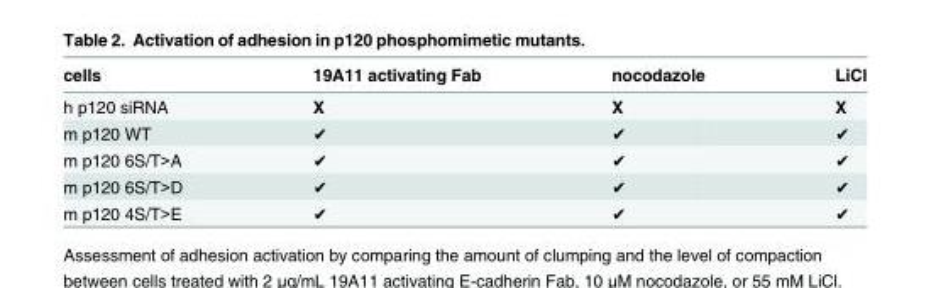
<table><thead><tr><td>cells</td><td>19A11 activating Fab</td><td>nocodazole</td><td>LiCl</td></tr></thead><tbody><tr><td>h p120 siRNA</td><td>X</td><td>X</td><td>X</td></tr><tr><td>m p120 WT</td><td>✔</td><td>✔</td><td>✔</td></tr><tr><td>m p120 6S/T&gt;A</td><td>✔</td><td>✔</td><td>✔</td></tr><tr><td>m p120 6S/T&gt;D</td><td>✔</td><td>✔</td><td>✔</td></tr><tr><td>m p120 4S/T&gt;E</td><td>✔</td><td>✔</td><td>✔</td></tr></tbody></table>